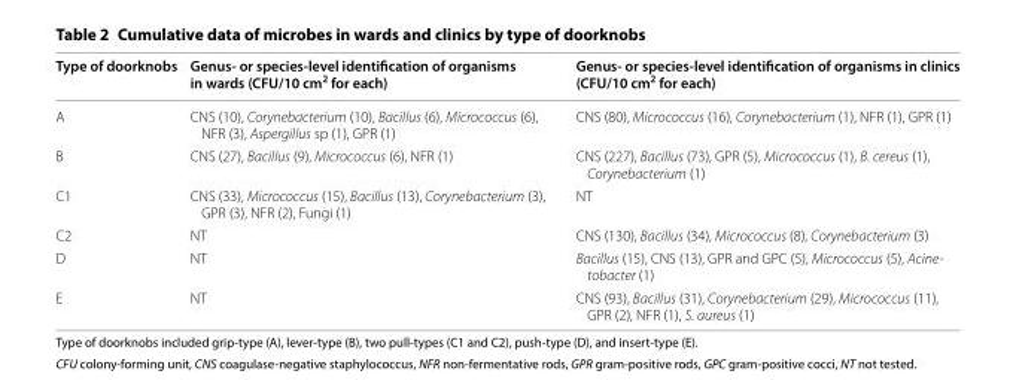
<table><thead><tr><td>Type of doorknobs</td><td>Genus- or species-level identification of organisms in wards (CFU/10 cm<sup>2</sup> for each)</td><td>Genus- or species-level identification of organisms in clinics (CFU/10 cm<sup>2</sup> for each)</td></tr></thead><tbody><tr><td>A</td><td>CNS (10), Corynebacterium (10), Bacillus (6), Micrococcus (6), NFR (3), Aspergillus sp (1), GPR (1)</td><td>CNS (80), Micrococcus (16), Corynebacterium (1), NFR (1), GPR (1)</td></tr><tr><td>B</td><td>CNS (27), Bacillus (9), Micrococcus (6), NFR (1)</td><td>CNS (227), Bacillus (73), GPR (5), Micrococcus (1), B. cereus (1), Corynebacterium (1)</td></tr><tr><td>C1</td><td>CNS (33), Micrococcus (15), Bacillus (13), Corynebacterium (3), GPR (3), NFR (2), Fungi (1)</td><td>NT</td></tr><tr><td>C2</td><td>NT</td><td>CNS (130), Bacillus (34), Micrococcus (8), Corynebacterium (3)</td></tr><tr><td>D</td><td>NT</td><td>Bacillus (15), CNS (13), GPR and GPC (5), Micrococcus (5), Acine- tobacter (1)</td></tr><tr><td>E</td><td>NT</td><td>CNS (93), Bacillus (31), Corynebacterium (29), Micrococcus (11), GPR (2), NFR (1), S. aureus (1)</td></tr></tbody></table>